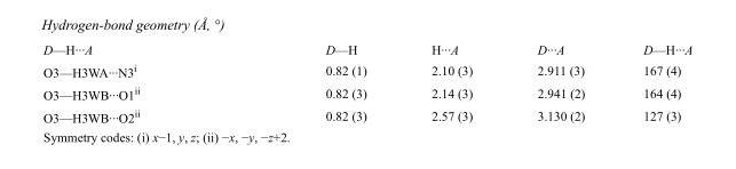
<table><tbody><tr><td>D—H···A</td><td>D—H</td><td>H···A</td><td>D···A</td><td>D—H···A</td></tr><tr><td>O3—H3WA···N3<sup>i</sup></td><td>0.82 (1)</td><td>2.10 (3)</td><td>2.911 (3)</td><td>167 (4)</td></tr><tr><td>O3—H3WB···O1<sup>ii</sup></td><td>0.82 (3)</td><td>2.14 (3)</td><td>2.941 (2)</td><td>164 (4)</td></tr><tr><td>O3—H3WB···O2<sup>ii</sup></td><td>0.82 (3)</td><td>2.57 (3)</td><td>3.130 (2)</td><td>127 (3)</td></tr></tbody></table>